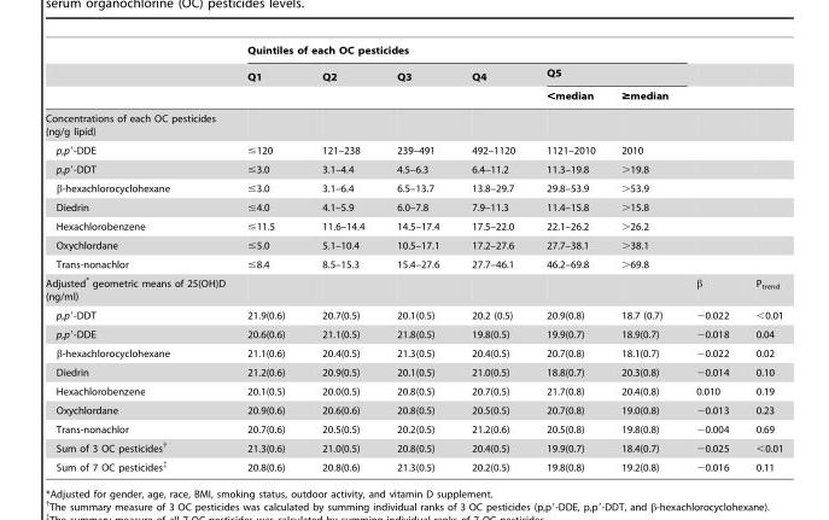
<table><thead><tr><td rowspan="3"></td><td colspan="6">Quintiles of each OC pesticides</td><td rowspan="3"></td><td rowspan="3"></td></tr><tr><td rowspan="2">Q1</td><td rowspan="2">Q2</td><td rowspan="2">Q3</td><td rowspan="2">Q4</td><td colspan="2">Q5</td></tr><tr><td>&lt;median</td><td>≥median</td></tr></thead><tbody><tr><td colspan="9">Concentrations of each OC pesticides (ng/g lipid)</td></tr><tr><td>p,p′-DDE</td><td>≤120</td><td>121–238</td><td>239–491</td><td>492–1120</td><td>1121–2010</td><td>2010</td><td></td><td></td></tr><tr><td>p,p′-DDT</td><td>≤3.0</td><td>3.1–4.4</td><td>4.5–6.3</td><td>6.4–11.2</td><td>11.3–19.8</td><td>&gt;19.8</td><td></td><td></td></tr><tr><td>β-hexachlorocyclohexane</td><td>≤3.0</td><td>3.1–6.4</td><td>6.5–13.7</td><td>13.8–29.7</td><td>29.8–53.9</td><td>&gt;53.9</td><td></td><td></td></tr><tr><td>Diedrin</td><td>≤4.0</td><td>4.1–5.9</td><td>6.0–7.8</td><td>7.9–11.3</td><td>11.4–15.8</td><td>&gt;15.8</td><td></td><td></td></tr><tr><td>Hexachlorobenzene</td><td>≤11.5</td><td>11.6–14.4</td><td>14.5–17.4</td><td>17.5–22.0</td><td>22.1–26.2</td><td>&gt;26.2</td><td></td><td></td></tr><tr><td>Oxychlordane</td><td>≤5.0</td><td>5.1–10.4</td><td>10.5–17.1</td><td>17.2–27.6</td><td>27.7–38.1</td><td>&gt;38.1</td><td></td><td></td></tr><tr><td>Trans-nonachlor</td><td>≤8.4</td><td>8.5–15.3</td><td>15.4–27.6</td><td>27.7–46.1</td><td>46.2–69.8</td><td>&gt;69.8</td><td></td><td></td></tr><tr><td>Adjusted* geometric means of 25(OH)D (ng/ml)</td><td></td><td></td><td></td><td></td><td></td><td></td><td>β</td><td>P<sub>trend</sub></td></tr><tr><td>p,p′-DDT</td><td>21.9(0.6)</td><td>20.7(0.5)</td><td>20.1(0.5)</td><td>20.2 (0.5)</td><td>20.9(0.8)</td><td>18.7 (0.7)</td><td>−0.022</td><td>&lt;0.01</td></tr><tr><td>p,p′-DDE</td><td>20.6(0.6)</td><td>21.1(0.5)</td><td>21.8(0.5)</td><td>19.8(0.5)</td><td>19.9(0.7)</td><td>18.9(0.7)</td><td>−0.018</td><td>0.04</td></tr><tr><td>β-hexachlorocyclohexane</td><td>21.1(0.6)</td><td>20.4(0.5)</td><td>21.3(0.5)</td><td>20.4(0.5)</td><td>20.7(0.8)</td><td>18.1(0.7)</td><td>−0.022</td><td>0.02</td></tr><tr><td>Diedrin</td><td>21.2(0.6)</td><td>20.9(0.5)</td><td>20.1(0.5)</td><td>21.0(0.5)</td><td>18.8(0.7)</td><td>20.3(0.8)</td><td>−0.014</td><td>0.10</td></tr><tr><td>Hexachlorobenzene</td><td>20.1(0.5)</td><td>20.0(0.5)</td><td>20.8(0.5)</td><td>20.7(0.5)</td><td>21.7(0.8)</td><td>20.4(0.8)</td><td>0.010</td><td>0.19</td></tr><tr><td>Oxychlordane</td><td>20.9(0.6)</td><td>20.6(0.6)</td><td>20.8(0.5)</td><td>20.5(0.5)</td><td>20.7(0.8)</td><td>19.0(0.8)</td><td>−0.013</td><td>0.23</td></tr><tr><td>Trans-nonachlor</td><td>20.7(0.6)</td><td>20.5(0.5)</td><td>20.2(0.5)</td><td>21.2(0.6)</td><td>20.5(0.8)</td><td>19.8(0.8)</td><td>−0.004</td><td>0.69</td></tr><tr><td>Sum of 3 OC pesticides†</td><td>21.3(0.6)</td><td>21.0(0.5)</td><td>20.8(0.5)</td><td>20.4(0.5)</td><td>19.9(0.7)</td><td>18.4(0.7)</td><td>−0.025</td><td>&lt;0.01</td></tr><tr><td>Sum of 7 OC pesticides‡</td><td>20.8(0.6)</td><td>20.8(0.6)</td><td>21.3(0.5)</td><td>20.2(0.5)</td><td>19.8(0.8)</td><td>19.2(0.8)</td><td>−0.016</td><td>0.11</td></tr></tbody></table>